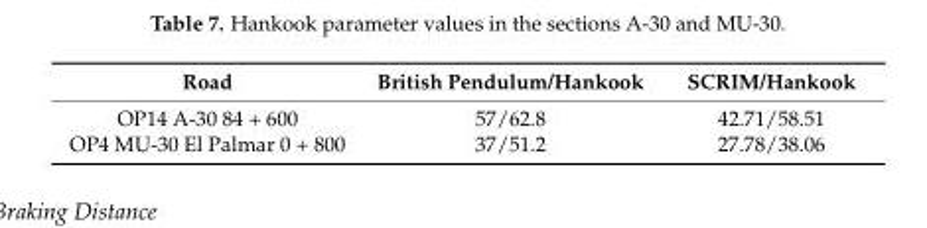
<table><thead><tr><td>Road</td><td>British Pendulum/Hankook</td><td>SCRIM/Hankook</td></tr></thead><tbody><tr><td>OP14 A-30 84 + 600</td><td>57/62.8</td><td>42.71/58.51</td></tr><tr><td>OP4 MU-30 El Palmar 0 + 800</td><td>37/51.2</td><td>27.78/38.06</td></tr></tbody></table>